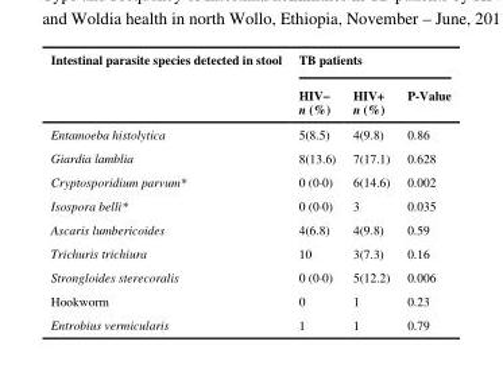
<table><thead><tr><td rowspan="2">Intestinal parasite species detected in stool</td><td colspan="3">TB patients</td></tr><tr><td>HIV− n (%)</td><td>HIV+ n (%)</td><td>P-Value</td></tr></thead><tbody><tr><td>Entamoeba histolytica</td><td>5(8.5)</td><td>4(9.8)</td><td>0.86</td></tr><tr><td>Giardia lamblia</td><td>8(13.6)</td><td>7(17.1)</td><td>0.628</td></tr><tr><td>Cryptosporidium parvum*</td><td>0 (0·0)</td><td>6(14.6)</td><td>0.002</td></tr><tr><td>Isospora belli*</td><td>0 (0·0)</td><td>3</td><td>0.035</td></tr><tr><td>Ascaris lumbericoides</td><td>4(6.8)</td><td>4(9.8)</td><td>0.59</td></tr><tr><td>Trichuris trichiura</td><td>10</td><td>3(7.3)</td><td>0.16</td></tr><tr><td>Strongloides sterecoralis</td><td>0 (0·0)</td><td>5(12.2)</td><td>0.006</td></tr><tr><td>Hookworm</td><td>0</td><td>1</td><td>0.23</td></tr><tr><td>Entrobius vermicularis</td><td>1</td><td>1</td><td>0.79</td></tr></tbody></table>